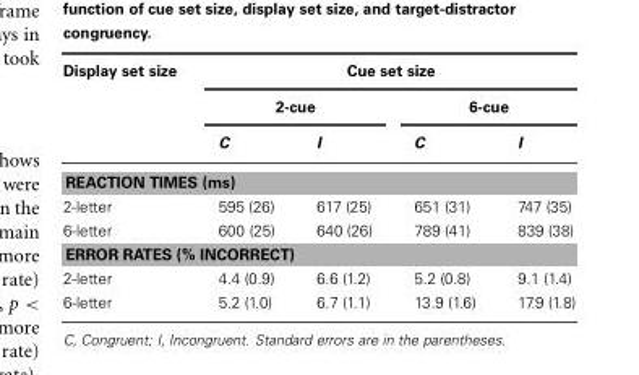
<table><thead><tr><td rowspan="3">Display set size</td><td colspan="4">Cue set size</td></tr><tr><td colspan="2">2-cue</td><td colspan="2">6-cue</td></tr><tr><td>C</td><td>I</td><td>C</td><td>I</td></tr></thead><tbody><tr><td colspan="5">REACTION TIMES (ms)</td></tr><tr><td>2-letter</td><td>595 (26)</td><td>617 (25)</td><td>651 (31)</td><td>747 (35)</td></tr><tr><td>6-letter</td><td>600 (25)</td><td>640 (26)</td><td>789 (41)</td><td>839 (38)</td></tr><tr><td colspan="5">ERROR RATES (% INCORRECT)</td></tr><tr><td>2-letter</td><td>4.4 (0.9)</td><td>6.6 (1.2)</td><td>5.2 (0.8)</td><td>9.1 (1.4)</td></tr><tr><td>6-letter</td><td>5.2 (1.0)</td><td>6.7 (1.1)</td><td>13.9 (1.6)</td><td>17.9 (1.8)</td></tr></tbody></table>